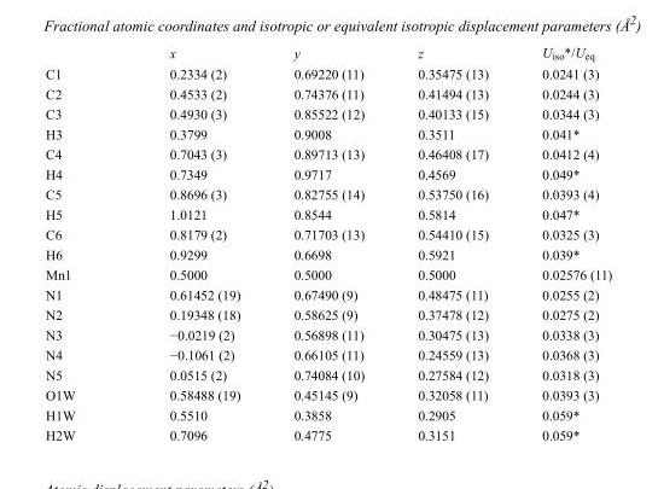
<table><thead><tr><td></td><td>x</td><td>y</td><td>z</td><td>U<sub>iso</sub>*/U<sub>eq</sub></td></tr></thead><tbody><tr><td>C1</td><td>0.2334 (2)</td><td>0.69220 (11)</td><td>0.35475 (13)</td><td>0.0241 (3)</td></tr><tr><td>C2</td><td>0.4533 (2)</td><td>0.74376 (11)</td><td>0.41494 (13)</td><td>0.0244 (3)</td></tr><tr><td>C3</td><td>0.4930 (3)</td><td>0.85522 (12)</td><td>0.40133 (15)</td><td>0.0344 (3)</td></tr><tr><td>H3</td><td>0.3799</td><td>0.9008</td><td>0.3511</td><td>0.041*</td></tr><tr><td>C4</td><td>0.7043 (3)</td><td>0.89713 (13)</td><td>0.46408 (17)</td><td>0.0412 (4)</td></tr><tr><td>H4</td><td>0.7349</td><td>0.9717</td><td>0.4569</td><td>0.049*</td></tr><tr><td>C5</td><td>0.8696 (3)</td><td>0.82755 (14)</td><td>0.53750 (16)</td><td>0.0393 (4)</td></tr><tr><td>H5</td><td>1.0121</td><td>0.8544</td><td>0.5814</td><td>0.047*</td></tr><tr><td>C6</td><td>0.8179 (2)</td><td>0.71703 (13)</td><td>0.54410 (15)</td><td>0.0325 (3)</td></tr><tr><td>H6</td><td>0.9299</td><td>0.6698</td><td>0.5921</td><td>0.039*</td></tr><tr><td>Mn1</td><td>0.5000</td><td>0.5000</td><td>0.5000</td><td>0.02576 (11)</td></tr><tr><td>N1</td><td>0.61452 (19)</td><td>0.67490 (9)</td><td>0.48475 (11)</td><td>0.0255 (2)</td></tr><tr><td>N2</td><td>0.19348 (18)</td><td>0.58625 (9)</td><td>0.37478 (12)</td><td>0.0275 (2)</td></tr><tr><td>N3</td><td>−0.0219 (2)</td><td>0.56898 (11)</td><td>0.30475 (13)</td><td>0.0338 (3)</td></tr><tr><td>N4</td><td>−0.1061 (2)</td><td>0.66105 (11)</td><td>0.24559 (13)</td><td>0.0368 (3)</td></tr><tr><td>N5</td><td>0.0515 (2)</td><td>0.74084 (10)</td><td>0.27584 (12)</td><td>0.0318 (3)</td></tr><tr><td>O1W</td><td>0.58488 (19)</td><td>0.45145 (9)</td><td>0.32058 (11)</td><td>0.0393 (3)</td></tr><tr><td>H1W</td><td>0.5510</td><td>0.3858</td><td>0.2905</td><td>0.059*</td></tr><tr><td>H2W</td><td>0.7096</td><td>0.4775</td><td>0.3151</td><td>0.059*</td></tr></tbody></table>